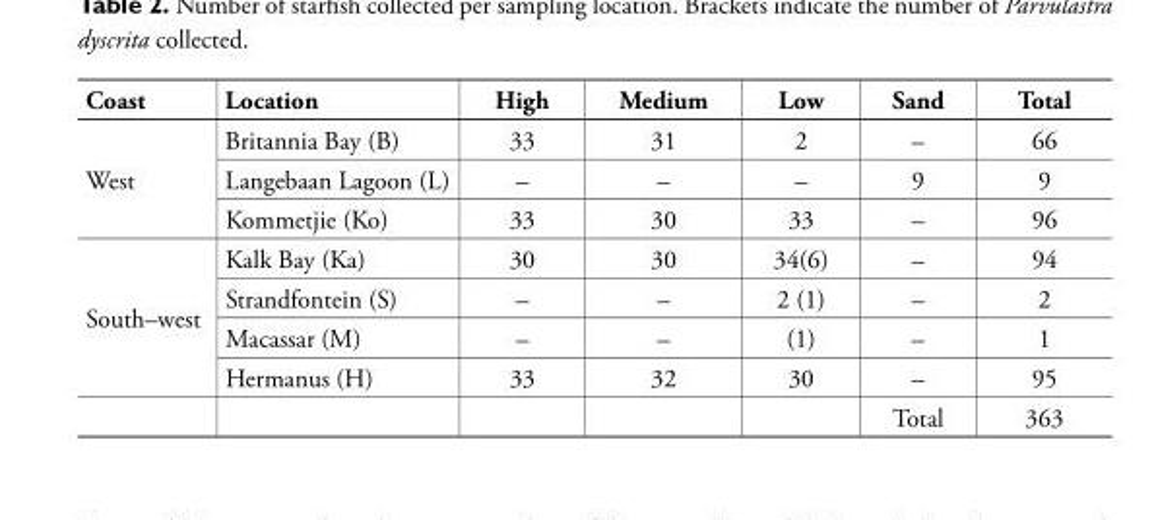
<table><thead><tr><td>Coast</td><td>Location</td><td>High</td><td>Medium</td><td>Low</td><td>Sand</td><td>Total</td></tr></thead><tbody><tr><td rowspan="3">West</td><td>Britannia Bay (B)</td><td>33</td><td>31</td><td>2</td><td>–</td><td>66</td></tr><tr><td>Langebaan Lagoon (L)</td><td>–</td><td>–</td><td>–</td><td>9</td><td>9</td></tr><tr><td>Kommetjie (Ko)</td><td>33</td><td>30</td><td>33</td><td>–</td><td>96</td></tr><tr><td rowspan="5">South–west</td><td>Kalk Bay (Ka)</td><td>30</td><td>30</td><td>34(6)</td><td>–</td><td>94</td></tr><tr><td>Strandfontein (S)</td><td>–</td><td>–</td><td>2 (1)</td><td>–</td><td>2</td></tr><tr><td>Macassar (M)</td><td>–</td><td>–</td><td>(1)</td><td>–</td><td>1</td></tr><tr><td>Hermanus (H)</td><td>33</td><td>32</td><td>30</td><td>–</td><td>95</td></tr><tr><td></td><td></td><td></td><td></td><td>Total</td><td>363</td></tr></tbody></table>